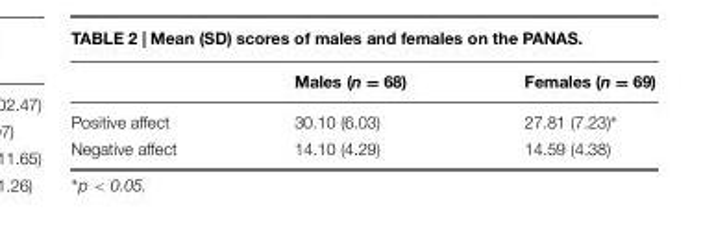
<table><thead><tr><td></td><td>Males (n = 68)</td><td>Females (n = 69)</td></tr></thead><tbody><tr><td>Positive affect</td><td>30.10 (6.03)</td><td>27.81 (7.23)∗</td></tr><tr><td>Negative affect</td><td>14.10 (4.29)</td><td>14.59 (4.38)</td></tr></tbody></table>